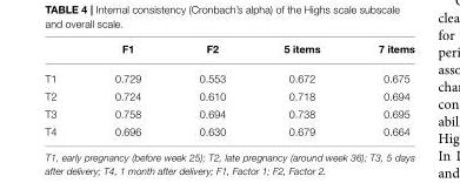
<table><thead><tr><td></td><td>F1</td><td>F2</td><td>5 items</td><td>7 items</td></tr></thead><tbody><tr><td>T1</td><td>0.729</td><td>0.553</td><td>0.672</td><td>0.675</td></tr><tr><td>T2</td><td>0.724</td><td>0.610</td><td>0.718</td><td>0.694</td></tr><tr><td>T3</td><td>0.758</td><td>0.694</td><td>0.738</td><td>0.695</td></tr><tr><td>T4</td><td>0.696</td><td>0.630</td><td>0.679</td><td>0.664</td></tr></tbody></table>